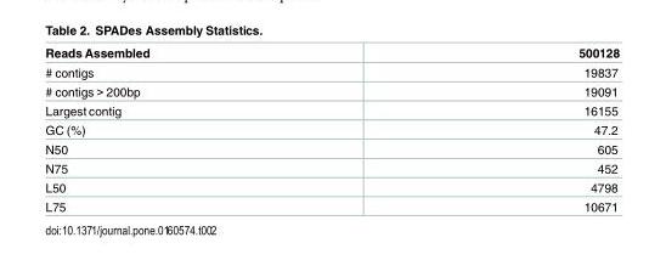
<table><thead><tr><td>Reads Assembled</td><td>500128</td></tr></thead><tbody><tr><td># contigs</td><td>19837</td></tr><tr><td># contigs &gt; 200bp</td><td>19091</td></tr><tr><td>Largest contig</td><td>16155</td></tr><tr><td>GC (%)</td><td>47.2</td></tr><tr><td>N50</td><td>605</td></tr><tr><td>N75</td><td>452</td></tr><tr><td>L50</td><td>4798</td></tr><tr><td>L75</td><td>10671</td></tr></tbody></table>